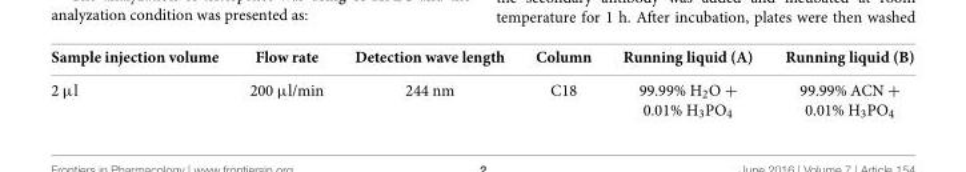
<table><thead><tr><td>Sample injection volume</td><td>Flow rate</td><td>Detection wave length</td><td>Column</td><td>Running liquid (A)</td><td>Running liquid (B)</td></tr></thead><tbody><tr><td>2 µl</td><td>200 µl/min</td><td>244 nm</td><td>C18</td><td>99.99% H<sub>2</sub>O + 0.01% H<sub>3</sub>PO<sub>4</sub></td><td>99.99% ACN + 0.01% H<sub>3</sub>PO<sub>4</sub></td></tr></tbody></table>